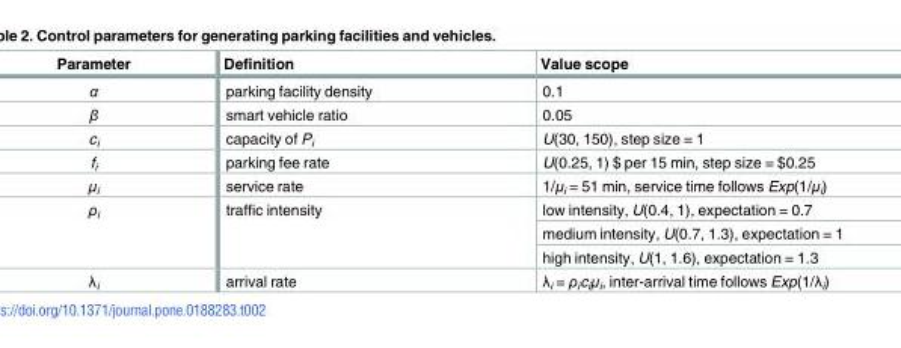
<table><thead><tr><td>Parameter</td><td>Definition</td><td>Value scope</td></tr></thead><tbody><tr><td>α</td><td>parking facility density</td><td>0.1</td></tr><tr><td>β</td><td>smart vehicle ratio</td><td>0.05</td></tr><tr><td>c<sub>i</sub></td><td>capacity of P<sub>i</sub></td><td>U(30, 150), step size = 1</td></tr><tr><td>f<sub>i</sub></td><td>parking fee rate</td><td>U(0.25, 1) $ per 15 min, step size = $0.25</td></tr><tr><td>μ<sub>i</sub></td><td>service rate</td><td>1/μ<sub>i</sub> = 51 min, service time follows Exp(1/μ<sub>i</sub>)</td></tr><tr><td rowspan="3">ρ<sub>i</sub></td><td rowspan="3">traffic intensity</td><td>low intensity, U(0.4, 1), expectation = 0.7</td></tr><tr><td>medium intensity, U(0.7, 1.3), expectation = 1</td></tr><tr><td>high intensity, U(1, 1.6), expectation = 1.3</td></tr><tr><td>λ<sub>i</sub></td><td>arrival rate</td><td>λ<sub>i</sub> = ρ<sub>i</sub>c<sub>i</sub>μ<sub>i</sub>, inter-arrival time follows Exp(1/λ<sub>i</sub>)</td></tr></tbody></table>